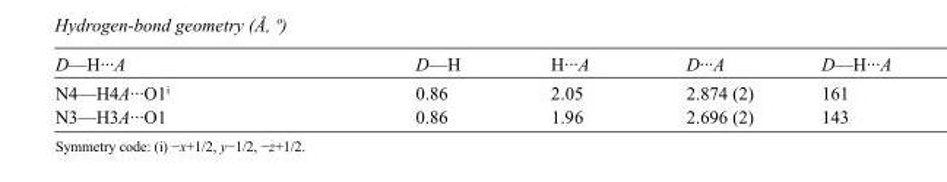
<table><tbody><tr><td>D—H···A</td><td>D—H</td><td>H···A</td><td>D···A</td><td>D—H···A</td></tr><tr><td>N4—H4A···O1<sup>i</sup></td><td>0.86</td><td>2.05</td><td>2.874 (2)</td><td>161</td></tr><tr><td>N3—H3A···O1</td><td>0.86</td><td>1.96</td><td>2.696 (2)</td><td>143</td></tr></tbody></table>